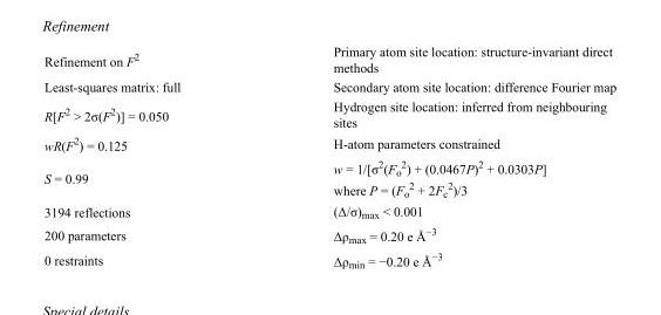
<table><tbody><tr><td>Refinement on F<sup>2</sup></td><td>Primary atom site location: structure-invariant direct methods</td></tr><tr><td>Least-squares matrix: full</td><td>Secondary atom site location: difference Fourier map</td></tr><tr><td>R[F<sup>2</sup> &gt; 2σ(F<sup>2</sup>)] = 0.050</td><td>Hydrogen site location: inferred from neighbouring sites</td></tr><tr><td>wR(F<sup>2</sup>) = 0.125</td><td>H-atom parameters constrained</td></tr><tr><td>S = 0.99</td><td>w = 1/[σ<sup>2</sup>(F<sub>o</sub> <sup>2</sup>) + (0.0467P)<sup>2</sup> + 0.0303P] where P = (F<sub>o</sub> <sup>2</sup> + 2F<sub>c</sub> <sup>2</sup>)/3</td></tr><tr><td>3194 reflections</td><td>(Δ/σ)<sub>max</sub> &lt; 0.001</td></tr><tr><td>200 parameters</td><td>Δρ<sub>max</sub> = 0.20 e Å<sup>−3</sup></td></tr><tr><td>0 restraints</td><td>Δρmin = −0.20 e Å−3</td></tr></tbody></table>